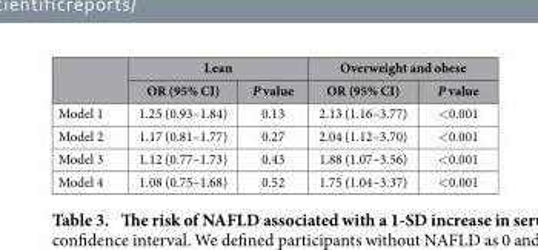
<table><thead><tr><td rowspan="2"></td><td colspan="2">Lean</td><td colspan="2">Overweight and obese</td></tr><tr><td>OR (95% CI)</td><td>P value</td><td>OR (95% CI)</td><td>P value</td></tr></thead><tbody><tr><td>Model 1</td><td>1.25 (0.93–1.84)</td><td>0.13</td><td>2.13 (1.16–3.77)</td><td>&lt; 0.001</td></tr><tr><td>Model 2</td><td>1.17 (0.81–1.77)</td><td>0.27</td><td>2.04 (1.12–3.70)</td><td>&lt; 0.001</td></tr><tr><td>Model 3</td><td>1.12 (0.77–1.73)</td><td>0.43</td><td>1.88 (1.07–3.56)</td><td>&lt; 0.001</td></tr><tr><td>Model 4</td><td>1.08 (0.75–1.68)</td><td>0.52</td><td>1.75 (1.04–3.37)</td><td>&lt; 0.001</td></tr></tbody></table>